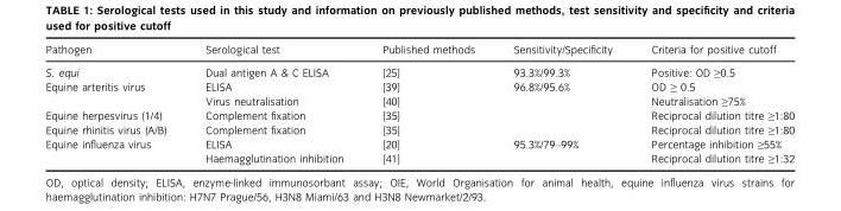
<table><thead><tr><td>Pathogen</td><td>Serological test</td><td>Published methods</td><td>Sensitivity/Specificity</td><td>Criteria for positive cutoff</td></tr></thead><tbody><tr><td>S. equi</td><td>Dual antigen A &amp; C ELISA</td><td>[25]</td><td>93.3%/99.3%</td><td>Positive: OD ≥0.5</td></tr><tr><td rowspan="2">Equine arteritis virus</td><td>ELISA</td><td>[39]</td><td>96.8%/95.6%</td><td>OD ≥ 0.5</td></tr><tr><td>Virus neutralisation</td><td>[40]</td><td></td><td>Neutralisation ≥75%</td></tr><tr><td>Equine herpesvirus (1/4)</td><td>Complement fixation</td><td>[35]</td><td></td><td>Reciprocal dilution titre ≥1:80</td></tr><tr><td>Equine rhinitis virus (A/B)</td><td>Complement fixation</td><td>[35]</td><td></td><td>Reciprocal dilution titre ≥1:80</td></tr><tr><td rowspan="2">Equine influenza virus</td><td>ELISA</td><td>[20]</td><td rowspan="2">95.3%/79–99%</td><td>Percentage inhibition ≥55%</td></tr><tr><td>Haemagglutination inhibition</td><td>[41]</td><td>Reciprocal dilution titre ≥1:32</td></tr></tbody></table>